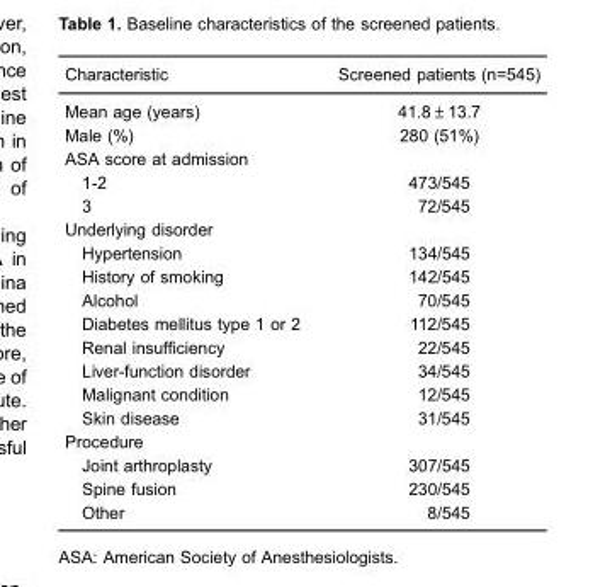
<table><thead><tr><td>Characteristic</td><td>Screened patients (n=545)</td></tr></thead><tbody><tr><td>Mean age (years)</td><td>41.8±13.7</td></tr><tr><td>Male (%)</td><td>280 (51%)</td></tr><tr><td colspan="2">ASA score at admission</td></tr><tr><td>1-2</td><td>473/545</td></tr><tr><td>3</td><td>72/545</td></tr><tr><td colspan="2">Underlying disorder</td></tr><tr><td>Hypertension</td><td>134/545</td></tr><tr><td>History of smoking</td><td>142/545</td></tr><tr><td>Alcohol</td><td>70/545</td></tr><tr><td>Diabetes mellitus type 1 or 2</td><td>112/545</td></tr><tr><td>Renal insufficiency</td><td>22/545</td></tr><tr><td>Liver-function disorder</td><td>34/545</td></tr><tr><td>Malignant condition</td><td>12/545</td></tr><tr><td>Skin disease</td><td>31/545</td></tr><tr><td colspan="2">Procedure</td></tr><tr><td>Joint arthroplasty</td><td>307/545</td></tr><tr><td>Spine fusion</td><td>230/545</td></tr><tr><td>Other</td><td>8/545</td></tr></tbody></table>